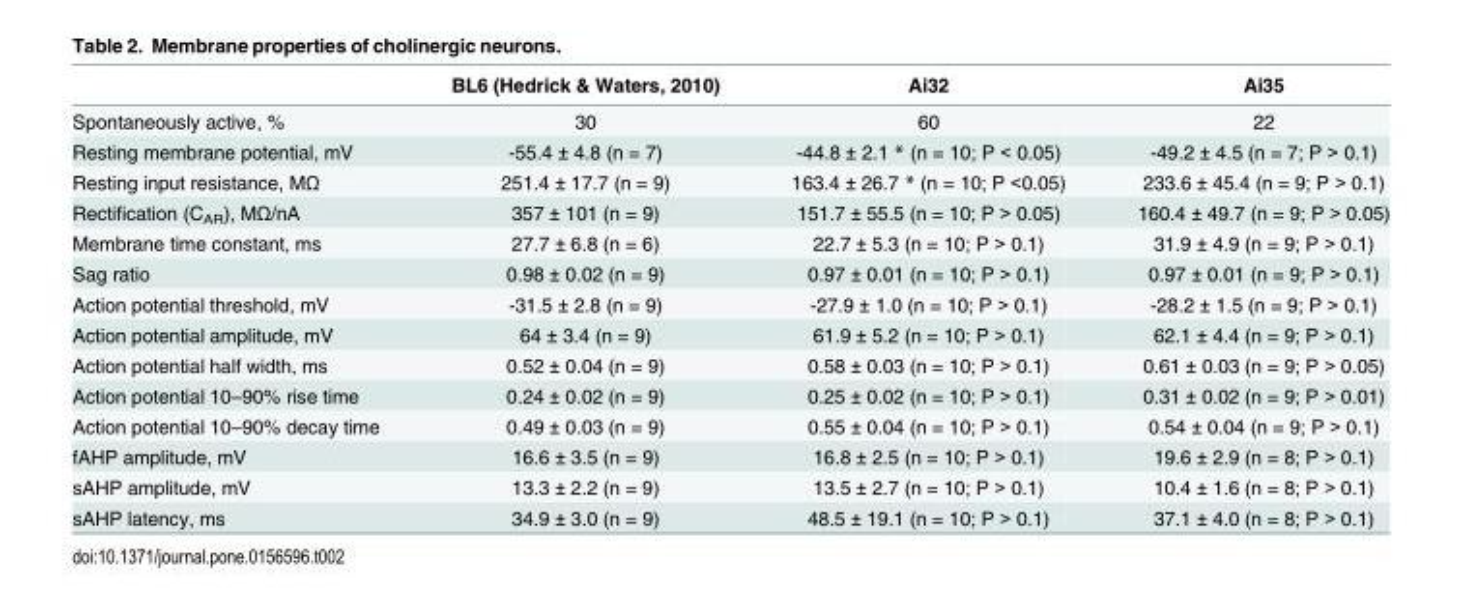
<table><thead><tr><td></td><td>BL6 (Hedrick &amp; Waters, 2010)</td><td>Ai32</td><td>Ai35</td></tr></thead><tbody><tr><td>Spontaneously active, %</td><td>30</td><td>60</td><td>22</td></tr><tr><td>Resting membrane potential, mV</td><td>-55.4 ± 4.8 (n = 7)</td><td>-44.8 ± 2.1 * (n = 10; P &lt; 0.05)</td><td>-49.2 ± 4.5 (n = 7; P &gt; 0.1)</td></tr><tr><td>Resting input resistance, MΩ</td><td>251.4 ± 17.7 (n = 9)</td><td>163.4 ± 26.7 * (n = 10; P &lt;0.05)</td><td>233.6 ± 45.4 (n = 9; P &gt; 0.1)</td></tr><tr><td>Rectification (C<sub>AR</sub>), MΩ/nA</td><td>357 ± 101 (n = 9)</td><td>151.7 ± 55.5 (n = 10; P &gt; 0.05)</td><td>160.4 ± 49.7 (n = 9; P &gt; 0.05)</td></tr><tr><td>Membrane time constant, ms</td><td>27.7 ± 6.8 (n = 6)</td><td>22.7 ± 5.3 (n = 10; P &gt; 0.1)</td><td>31.9 ± 4.9 (n = 9; P &gt; 0.1)</td></tr><tr><td>Sag ratio</td><td>0.98 ± 0.02 (n = 9)</td><td>0.97 ± 0.01 (n = 10; P &gt; 0.1)</td><td>0.97 ± 0.01 (n = 9; P &gt; 0.1)</td></tr><tr><td>Action potential threshold, mV</td><td>-31.5 ± 2.8 (n = 9)</td><td>-27.9 ± 1.0 (n = 10; P &gt; 0.1)</td><td>-28.2 ± 1.5 (n = 9; P &gt; 0.1)</td></tr><tr><td>Action potential amplitude, mV</td><td>64 ± 3.4 (n = 9)</td><td>61.9 ± 5.2 (n = 10; P &gt; 0.1)</td><td>62.1 ± 4.4 (n = 9; P &gt; 0.1)</td></tr><tr><td>Action potential half width, ms</td><td>0.52 ± 0.04 (n = 9)</td><td>0.58 ± 0.03 (n = 10; P &gt; 0.1)</td><td>0.61 ± 0.03 (n = 9; P &gt; 0.05)</td></tr><tr><td>Action potential 10–90% rise time</td><td>0.24 ± 0.02 (n = 9)</td><td>0.25 ± 0.02 (n = 10; P &gt; 0.1)</td><td>0.31 ± 0.02 (n = 9; P &gt; 0.01)</td></tr><tr><td>Action potential 10–90% decay time</td><td>0.49 ± 0.03 (n = 9)</td><td>0.55 ± 0.04 (n = 10; P &gt; 0.1)</td><td>0.54 ± 0.04 (n = 9; P &gt; 0.1)</td></tr><tr><td>fAHP amplitude, mV</td><td>16.6 ± 3.5 (n = 9)</td><td>16.8 ± 2.5 (n = 10; P &gt; 0.1)</td><td>19.6 ± 2.9 (n = 8; P &gt; 0.1)</td></tr><tr><td>sAHP amplitude, mV</td><td>13.3 ± 2.2 (n = 9)</td><td>13.5 ± 2.7 (n = 10; P &gt; 0.1)</td><td>10.4 ± 1.6 (n = 8; P &gt; 0.1)</td></tr><tr><td>sAHP latency, ms</td><td>34.9 ± 3.0 (n = 9)</td><td>48.5 ± 19.1 (n = 10; P &gt; 0.1)</td><td>37.1 ± 4.0 (n = 8; P &gt; 0.1)</td></tr></tbody></table>